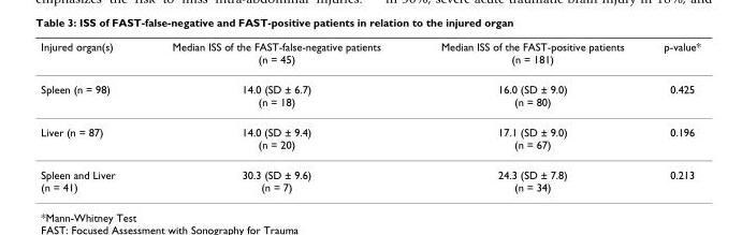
<table><thead><tr><td>Injured organ(s)</td><td>Median ISS of the FAST-false-negative patients (n = 45)</td><td>Median ISS of the FAST-positive patients (n = 181)</td><td>p-value*</td></tr></thead><tbody><tr><td>Spleen (n = 98)</td><td>14.0 (SD ± 6.7) (n = 18)</td><td>16.0 (SD ± 9.0) (n = 80)</td><td>0.425</td></tr><tr><td>Liver (n = 87)</td><td>14.0 (SD ± 9.4) (n = 20)</td><td>17.1 (SD ± 9.0) (n = 67)</td><td>0.196</td></tr><tr><td>Spleen and Liver (n = 41)</td><td>30.3 (SD ± 9.6) (n = 7)</td><td>24.3 (SD ± 7.8) (n = 34)</td><td>0.213</td></tr></tbody></table>